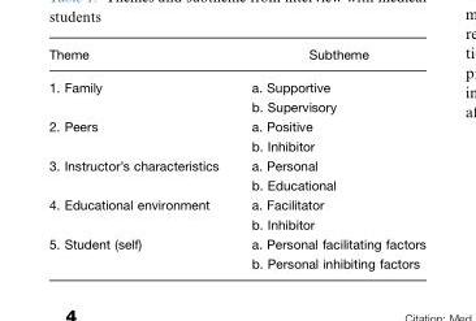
<table><thead><tr><td>Theme</td><td>Subtheme</td></tr></thead><tbody><tr><td rowspan="2">1. Family</td><td>a. Supportive</td></tr><tr><td>b. Supervisory</td></tr><tr><td rowspan="2">2. Peers</td><td>a. Positive</td></tr><tr><td>b. Inhibitor</td></tr><tr><td rowspan="2">3. Instructor’s characteristics</td><td>a. Personal</td></tr><tr><td>b. Educational</td></tr><tr><td rowspan="2">4. Educational environment</td><td>a. Facilitator</td></tr><tr><td>b. Inhibitor</td></tr><tr><td rowspan="2">5. Student (self)</td><td>a. Personal facilitating factors</td></tr><tr><td>b. Personal inhibiting factors</td></tr></tbody></table>